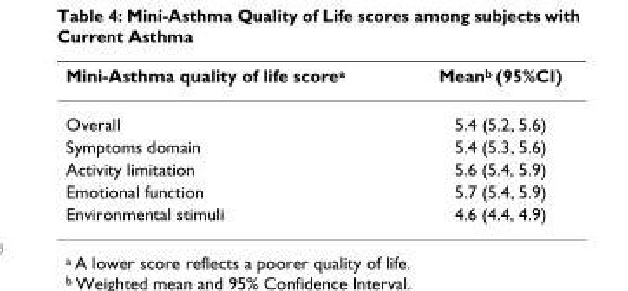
<table><thead><tr><td>Mini-Asthma quality of life score<sup>a</sup></td><td>Mean<sup>b</sup> (95%CI)</td></tr></thead><tbody><tr><td>Overall</td><td>5.4 (5.2, 5.6)</td></tr><tr><td>Symptoms domain</td><td>5.4 (5.3, 5.6)</td></tr><tr><td>Activity limitation</td><td>5.6 (5.4, 5.9)</td></tr><tr><td>Emotional function</td><td>5.7 (5.4, 5.9)</td></tr><tr><td>Environmental stimuli</td><td>4.6 (4.4, 4.9)</td></tr></tbody></table>